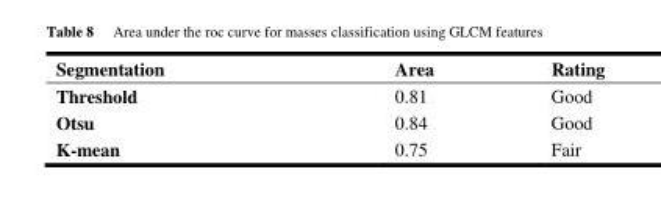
<table><thead><tr><td>Segmentation</td><td>Area</td><td>Rating</td></tr></thead><tbody><tr><td>Threshold</td><td>0.81</td><td>Good</td></tr><tr><td>Otsu</td><td>0.84</td><td>Good</td></tr><tr><td>K-mean</td><td>0.75</td><td>Fair</td></tr></tbody></table>